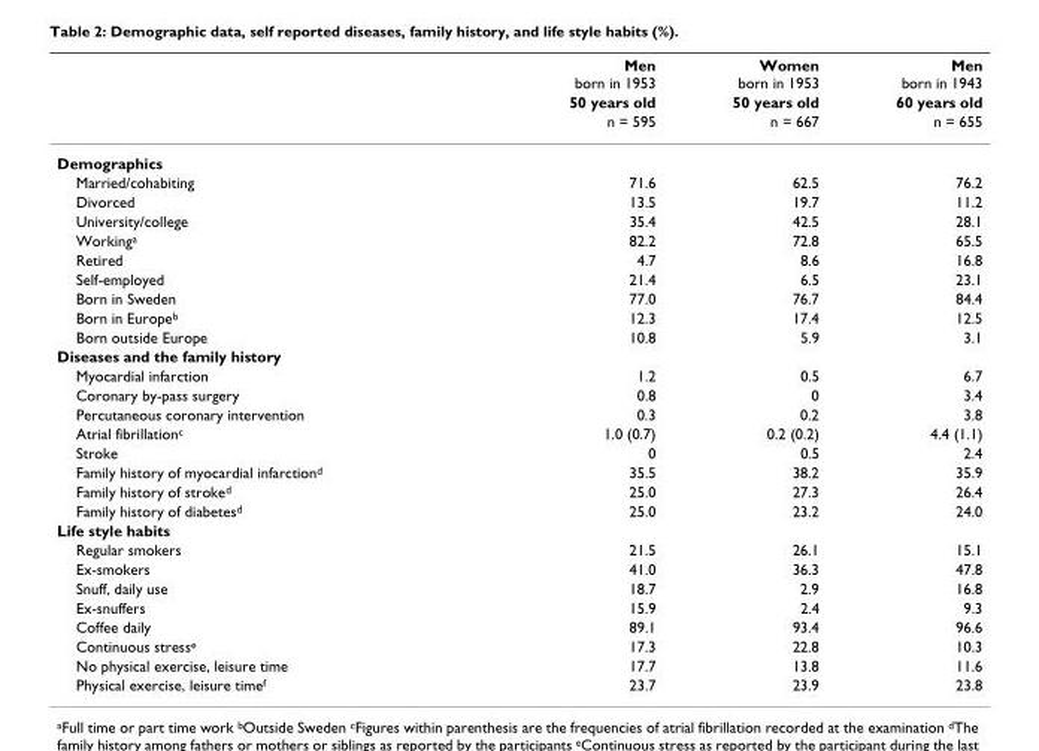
<table><thead><tr><td rowspan="3"></td><td rowspan="3">Men born in 1953 50 years old n = 595</td><td rowspan="3">Women born in 1953 50 years old n = 667</td><td rowspan="3">Men born in 1943 60 years old n = 655</td></tr><tr></tr><tr></tr></thead><tbody><tr><td colspan="4">Demographics</td></tr><tr><td>Married/cohabiting</td><td>71.6</td><td>62.5</td><td>76.2</td></tr><tr><td>Divorced</td><td>13.5</td><td>19.7</td><td>11.2</td></tr><tr><td>University/college</td><td>35.4</td><td>42.5</td><td>28.1</td></tr><tr><td>Working<sup>a</sup></td><td>82.2</td><td>72.8</td><td>65.5</td></tr><tr><td>Retired</td><td>4.7</td><td>8.6</td><td>16.8</td></tr><tr><td>Self-employed</td><td>21.4</td><td>6.5</td><td>23.1</td></tr><tr><td>Born in Sweden</td><td>77.0</td><td>76.7</td><td>84.4</td></tr><tr><td>Born in Europe<sup>b</sup></td><td>12.3</td><td>17.4</td><td>12.5</td></tr><tr><td>Born outside Europe</td><td>10.8</td><td>5.9</td><td>3.1</td></tr><tr><td colspan="4">Diseases and the family history</td></tr><tr><td>Myocardial infarction</td><td>1.2</td><td>0.5</td><td>6.7</td></tr><tr><td>Coronary by-pass surgery</td><td>0.8</td><td>0</td><td>3.4</td></tr><tr><td>Percutaneous coronary intervention</td><td>0.3</td><td>0.2</td><td>3.8</td></tr><tr><td>Atrial fibrillation<sup>c</sup></td><td>1.0 (0.7)</td><td>0.2 (0.2)</td><td>4.4 (1.1)</td></tr><tr><td>Stroke</td><td>0</td><td>0.5</td><td>2.4</td></tr><tr><td>Family history of myocardial infarction<sup>d</sup></td><td>35.5</td><td>38.2</td><td>35.9</td></tr><tr><td>Family history of stroke<sup>d</sup></td><td>25.0</td><td>27.3</td><td>26.4</td></tr><tr><td>Family history of diabetes<sup>d</sup></td><td>25.0</td><td>23.2</td><td>24.0</td></tr><tr><td colspan="4">Life style habits</td></tr><tr><td>Regular smokers</td><td>21.5</td><td>26.1</td><td>15.1</td></tr><tr><td>Ex-smokers</td><td>41.0</td><td>36.3</td><td>47.8</td></tr><tr><td>Snuff, daily use</td><td>18.7</td><td>2.9</td><td>16.8</td></tr><tr><td>Ex-snuffers</td><td>15.9</td><td>2.4</td><td>9.3</td></tr><tr><td>Coffee daily</td><td>89.1</td><td>93.4</td><td>96.6</td></tr><tr><td>Continuous stress<sup>e</sup></td><td>17.3</td><td>22.8</td><td>10.3</td></tr><tr><td>No physical exercise, leisure time</td><td>17.7</td><td>13.8</td><td>11.6</td></tr><tr><td>Physical exercise, leisure time<sup>f</sup></td><td>23.7</td><td>23.9</td><td>23.8</td></tr></tbody></table>